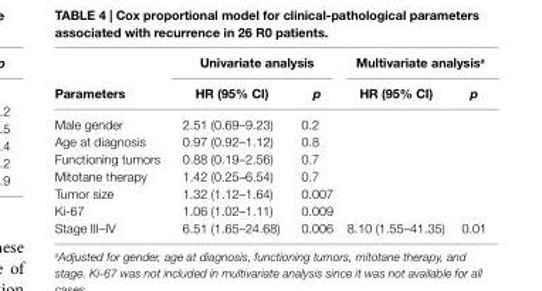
<table><thead><tr><td rowspan="2">Parameters</td><td colspan="2">Univariate analysis</td><td colspan="2">Multivariate analysis<sup>a</sup></td></tr><tr><td>hr (95% ci)</td><td>p</td><td>hr (95% ci)</td><td>p</td></tr></thead><tbody><tr><td>Male gender</td><td>2.51 (0.69–9.23)</td><td>0.2</td><td></td><td></td></tr><tr><td>Age at diagnosis</td><td>0.97 (0.92–1.12)</td><td>0.8</td><td></td><td></td></tr><tr><td>Functioning tumors</td><td>0.88 (0.19–2.56)</td><td>0.7</td><td></td><td></td></tr><tr><td>Mitotane therapy</td><td>1.42 (0.25–6.54)</td><td>0.7</td><td></td><td></td></tr><tr><td>Tumor size</td><td>1.32 (1.12–1.64)</td><td>0.007</td><td></td><td></td></tr><tr><td>Ki-67</td><td>1.06 (1.02–1.11)</td><td>0.009</td><td></td><td></td></tr><tr><td>Stage III–IV</td><td>6.51 (1.65–24.68)</td><td>0.006</td><td>8.10 (1.55–41.35)</td><td>0.01</td></tr></tbody></table>